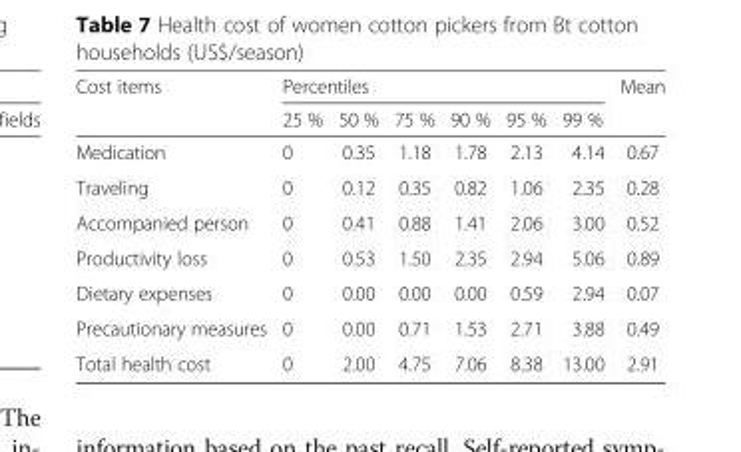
<table><thead><tr><td rowspan="2">Cost items</td><td colspan="6">Percentiles</td><td rowspan="2">Mean</td></tr><tr><td>25 %</td><td>50 %</td><td>75 %</td><td>90 %</td><td>95 %</td><td>99 %</td></tr></thead><tbody><tr><td>Medication</td><td>0</td><td>0.35</td><td>1.18</td><td>1.78</td><td>2.13</td><td>4.14</td><td>0.67</td></tr><tr><td>Traveling</td><td>0</td><td>0.12</td><td>0.35</td><td>0.82</td><td>1.06</td><td>2.35</td><td>0.28</td></tr><tr><td>Accompanied person</td><td>0</td><td>0.41</td><td>0.88</td><td>1.41</td><td>2.06</td><td>3.00</td><td>0.52</td></tr><tr><td>Productivity loss</td><td>0</td><td>0.53</td><td>1.50</td><td>2.35</td><td>2.94</td><td>5.06</td><td>0.89</td></tr><tr><td>Dietary expenses</td><td>0</td><td>0.00</td><td>0.00</td><td>0.00</td><td>0.59</td><td>2.94</td><td>0.07</td></tr><tr><td>Precautionary measures</td><td>0</td><td>0.00</td><td>0.71</td><td>1.53</td><td>2.71</td><td>3.88</td><td>0.49</td></tr><tr><td>Total health cost</td><td>0</td><td>2.00</td><td>4.75</td><td>7.06</td><td>8.38</td><td>13.00</td><td>2.91</td></tr></tbody></table>